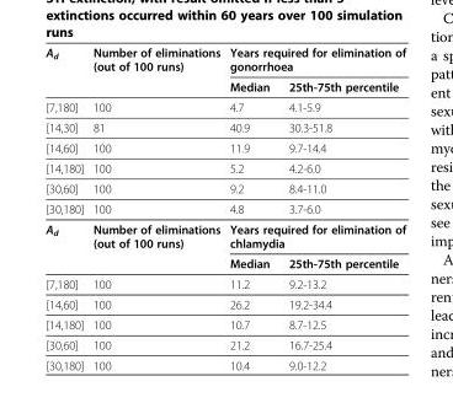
<table><tbody><tr><td rowspan="2">A<sub>d</sub></td><td>Number of eliminations (out of 100 runs)</td><td colspan="2">Years required for elimination of gonorrhoea</td></tr><tr><td></td><td>Median</td><td>25th-75th percentile</td></tr><tr><td>[7,180]</td><td>100</td><td>4.7</td><td>4.1-5.9</td></tr><tr><td>[14,30]</td><td>81</td><td>40.9</td><td>30.3-51.8</td></tr><tr><td>[14,60]</td><td>100</td><td>11.9</td><td>9.7-14.4</td></tr><tr><td>[14,180]</td><td>100</td><td>5.2</td><td>4.2-6.0</td></tr><tr><td>[30,60]</td><td>100</td><td>9.2</td><td>8.4-11.0</td></tr><tr><td>[30,180]</td><td>100</td><td>4.8</td><td>3.7-6.0</td></tr><tr><td rowspan="2">A<sub>d</sub></td><td>Number of eliminations (out of 100 runs)</td><td colspan="2">Years required for elimination of chlamydia</td></tr><tr><td></td><td>Median</td><td>25th-75th percentile</td></tr><tr><td>[7,180]</td><td>100</td><td>11.2</td><td>9.2-13.2</td></tr><tr><td>[14,60]</td><td>100</td><td>26.2</td><td>19.2-34.4</td></tr><tr><td>[14,180]</td><td>100</td><td>10.7</td><td>8.7-12.5</td></tr><tr><td>[30,60]</td><td>100</td><td>21.2</td><td>16.7-25.4</td></tr><tr><td>[30,180]</td><td>100</td><td>10.4</td><td>9.0-12.2</td></tr></tbody></table>